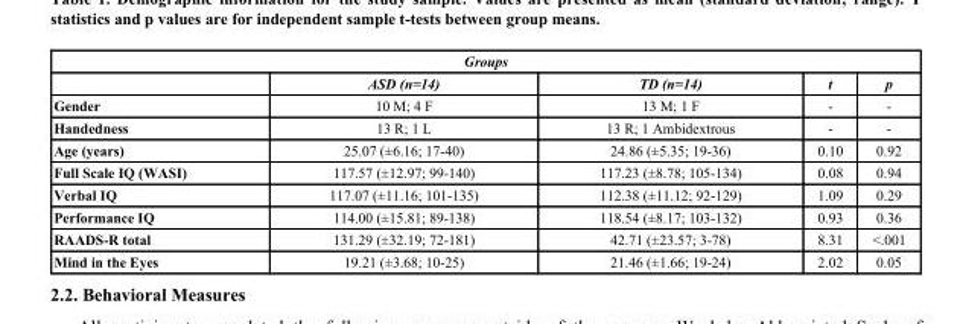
<table><thead><tr><td colspan="5">Groups</td></tr><tr><td></td><td>ASD (n=14)</td><td>TD (n=14)</td><td>t</td><td>p</td></tr></thead><tbody><tr><td>Gender</td><td>10 M; 4 F</td><td>13 M; 1 F</td><td>-</td><td>-</td></tr><tr><td>Handedness</td><td>13 R; 1 L</td><td>13 R; 1 Ambidextrous</td><td>-</td><td>-</td></tr><tr><td>Age (years)</td><td>25.07 (±6.16; 17-40)</td><td>24.86 (±5.35; 19-36)</td><td>0.10</td><td>0.92</td></tr><tr><td>Full Scale IQ (WASI)</td><td>117.57 (±12.97; 99-140)</td><td>117.23 (±8.78; 105-134)</td><td>0.08</td><td>0.94</td></tr><tr><td>Verbal IQ</td><td>117.07 (±11.16; 101-135)</td><td>112.38 (±11.12; 92-129)</td><td>1.09</td><td>0.29</td></tr><tr><td>Performance IQ</td><td>114.00 (±15.81; 89-138)</td><td>118.54 (±8.17; 103-132)</td><td>0.93</td><td>0.36</td></tr><tr><td>RAADS-R total</td><td>131.29 (±32.19; 72-181)</td><td>42.71 (±23.57; 3-78)</td><td>8.31</td><td>&lt;.001</td></tr><tr><td>Mind in the Eyes</td><td>19.21 (±3.68; 10-25)</td><td>21.46 (±1.66; 19-24)</td><td>2.02</td><td>0.05</td></tr></tbody></table>